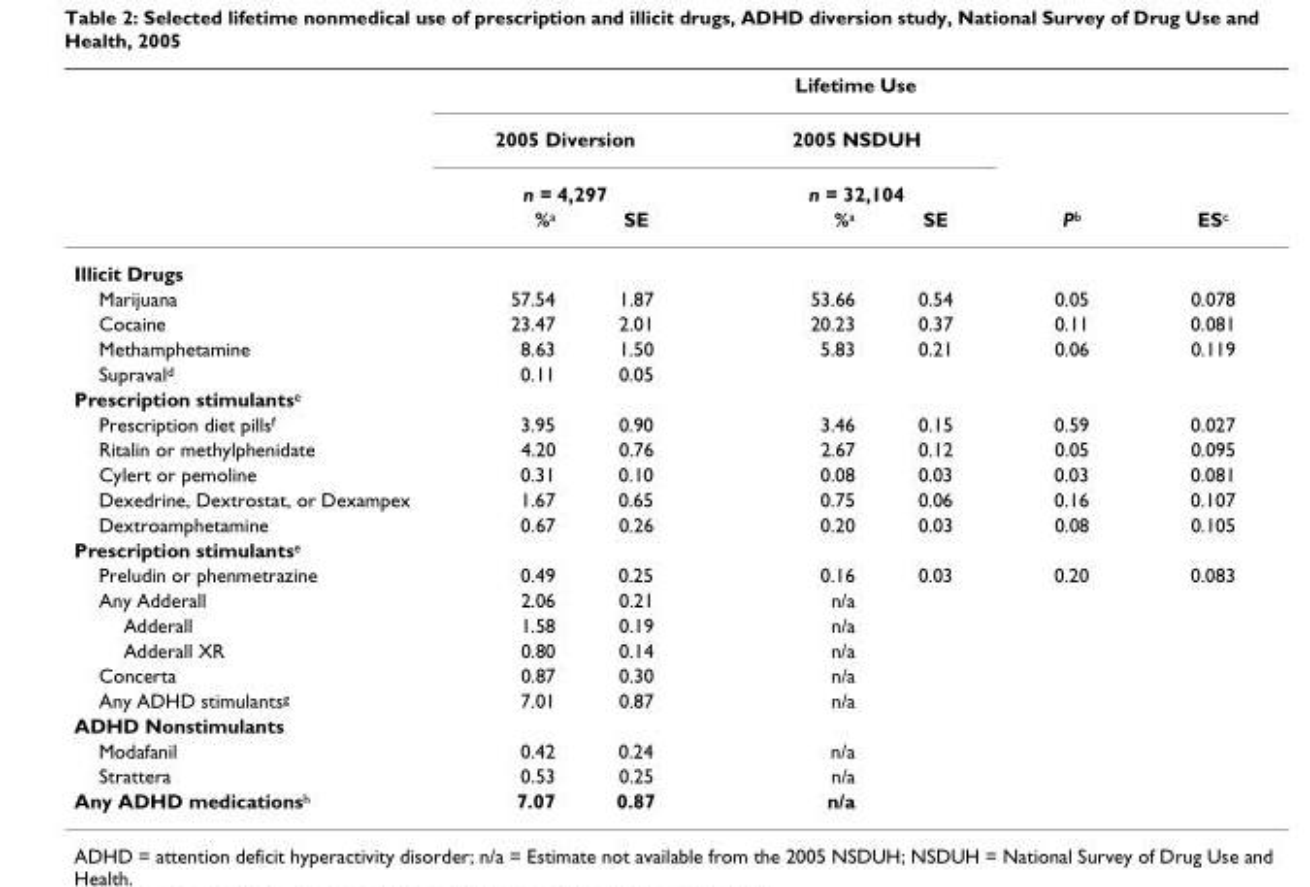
<table><thead><tr><td rowspan="4"></td><td colspan="6">Lifetime Use</td></tr><tr><td rowspan="2" colspan="2">2005 Diversion n = 4,297</td><td rowspan="2" colspan="2">2005 NSDUH n = 32,104</td><td rowspan="3">P<sup>b</sup></td><td rowspan="3">ES<sup>c</sup></td></tr><tr></tr><tr><td>%<sup>a</sup></td><td>SE</td><td>%<sup>a</sup></td><td>SE</td></tr></thead><tbody><tr><td colspan="7">Illicit Drugs</td></tr><tr><td>Marijuana</td><td>57.54</td><td>1.87</td><td>53.66</td><td>0.54</td><td>0.05</td><td>0.078</td></tr><tr><td>Cocaine</td><td>23.47</td><td>2.01</td><td>20.23</td><td>0.37</td><td>0.11</td><td>0.081</td></tr><tr><td>Methamphetamine</td><td>8.63</td><td>1.50</td><td>5.83</td><td>0.21</td><td>0.06</td><td>0.119</td></tr><tr><td>Supraval<sup>d</sup></td><td>0.11</td><td>0.05</td><td></td><td></td><td></td><td></td></tr><tr><td colspan="7">Prescription stimulants<sup>e</sup></td></tr><tr><td>Prescription diet pills<sup>f</sup></td><td>3.95</td><td>0.90</td><td>3.46</td><td>0.15</td><td>0.59</td><td>0.027</td></tr><tr><td>Ritalin or methylphenidate</td><td>4.20</td><td>0.76</td><td>2.67</td><td>0.12</td><td>0.05</td><td>0.095</td></tr><tr><td>Cylert or pemoline</td><td>0.31</td><td>0.10</td><td>0.08</td><td>0.03</td><td>0.03</td><td>0.081</td></tr><tr><td>Dexedrine, Dextrostat, or Dexampex</td><td>1.67</td><td>0.65</td><td>0.75</td><td>0.06</td><td>0.16</td><td>0.107</td></tr><tr><td>Dextroamphetamine</td><td>0.67</td><td>0.26</td><td>0.20</td><td>0.03</td><td>0.08</td><td>0.105</td></tr><tr><td colspan="7">Prescription stimulants<sup>e</sup></td></tr><tr><td>Preludin or phenmetrazine</td><td>0.49</td><td>0.25</td><td>0.16</td><td>0.03</td><td>0.20</td><td>0.083</td></tr><tr><td>Any Adderall</td><td>2.06</td><td>0.21</td><td>n/a</td><td></td><td></td><td></td></tr><tr><td>Adderall</td><td>1.58</td><td>0.19</td><td>n/a</td><td></td><td></td><td></td></tr><tr><td>Adderall XR</td><td>0.80</td><td>0.14</td><td>n/a</td><td></td><td></td><td></td></tr><tr><td>Concerta</td><td>0.87</td><td>0.30</td><td>n/a</td><td></td><td></td><td></td></tr><tr><td>Any ADHD stimulants<sup>g</sup></td><td>7.01</td><td>0.87</td><td>n/a</td><td></td><td></td><td></td></tr><tr><td colspan="7">ADHD Nonstimulants</td></tr><tr><td>Modafanil</td><td>0.42</td><td>0.24</td><td>n/a</td><td></td><td></td><td></td></tr><tr><td>Strattera</td><td>0.53</td><td>0.25</td><td>n/a</td><td></td><td></td><td></td></tr><tr><td>Any ADHD medications<sup>h</sup></td><td>7.07</td><td>0.87</td><td>n/a</td><td></td><td></td><td></td></tr></tbody></table>